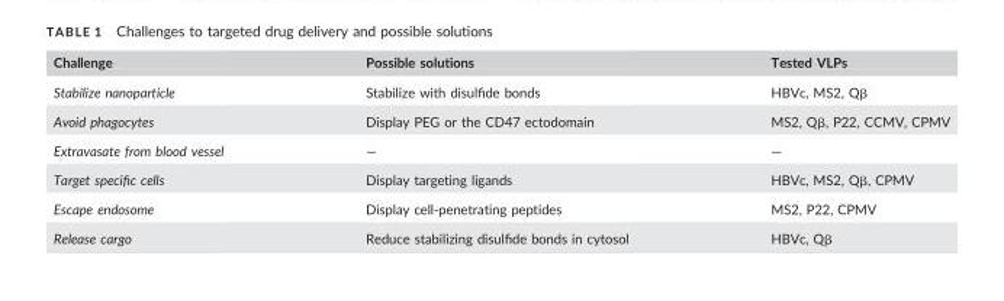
<table><thead><tr><td>Challenge</td><td>Possible solutions</td><td>Tested VLPs</td></tr></thead><tbody><tr><td>Stabilize nanoparticle</td><td>Stabilize with disulfide bonds</td><td>HBVc, MS2, Qβ</td></tr><tr><td>Avoid phagocytes</td><td>Display PEG or the CD47 ectodomain</td><td>MS2, Qβ, P22, CCMV, CPMV</td></tr><tr><td>Extravasate from blood vessel</td><td>—</td><td>—</td></tr><tr><td>Target specific cells</td><td>Display targeting ligands</td><td>HBVc, MS2, Qβ, CPMV</td></tr><tr><td>Escape endosome</td><td>Display cell-penetrating peptides</td><td>MS2, P22, CPMV</td></tr><tr><td>Release cargo</td><td>Reduce stabilizing disulfide bonds in cytosol</td><td>HBVc, Qβ</td></tr></tbody></table>